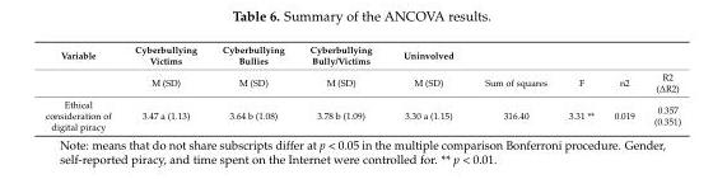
<table><thead><tr><td>Variable</td><td>Cyberbullying Victims</td><td>Cyberbullying Bullies</td><td>Cyberbullying Bully/Victims</td><td>Uninvolved</td><td></td><td></td><td></td><td></td></tr></thead><tbody><tr><td></td><td>M (SD)</td><td>M (SD)</td><td>M (SD)</td><td>M (SD)</td><td>Sum of squares</td><td>F</td><td>n2</td><td>R2 (∆R2)</td></tr><tr><td>Ethical consideration of digital piracy</td><td>3.47 a (1.13)</td><td>3.64 b (1.08)</td><td>3.78 b (1.09)</td><td>3.30 a (1.15)</td><td>316.40</td><td>3.31 **</td><td>0.019</td><td>0.357 (0.351)</td></tr></tbody></table>